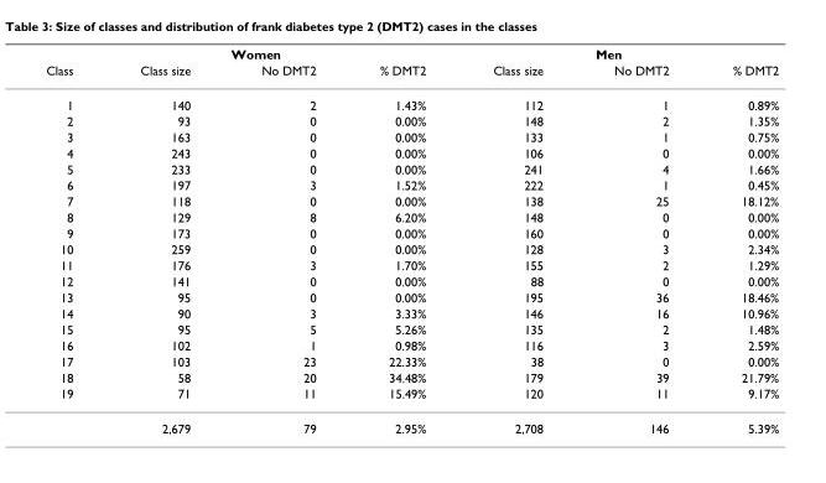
<table><thead><tr><td rowspan="2">Class</td><td colspan="3">Women</td><td colspan="3">Men</td></tr><tr><td>Class size</td><td>No DMT2</td><td>% DMT2</td><td>Class size</td><td>No DMT2</td><td>% DMT2</td></tr></thead><tbody><tr><td>1</td><td>140</td><td>2</td><td>1.43%</td><td>112</td><td>1</td><td>0.89%</td></tr><tr><td>2</td><td>93</td><td>0</td><td>0.00%</td><td>148</td><td>2</td><td>1.35%</td></tr><tr><td>3</td><td>163</td><td>0</td><td>0.00%</td><td>133</td><td>1</td><td>0.75%</td></tr><tr><td>4</td><td>243</td><td>0</td><td>0.00%</td><td>106</td><td>0</td><td>0.00%</td></tr><tr><td>5</td><td>233</td><td>0</td><td>0.00%</td><td>241</td><td>4</td><td>1.66%</td></tr><tr><td>6</td><td>197</td><td>3</td><td>1.52%</td><td>222</td><td>1</td><td>0.45%</td></tr><tr><td>7</td><td>118</td><td>0</td><td>0.00%</td><td>138</td><td>25</td><td>18.12%</td></tr><tr><td>8</td><td>129</td><td>8</td><td>6.20%</td><td>148</td><td>0</td><td>0.00%</td></tr><tr><td>9</td><td>173</td><td>0</td><td>0.00%</td><td>160</td><td>0</td><td>0.00%</td></tr><tr><td>10</td><td>259</td><td>0</td><td>0.00%</td><td>128</td><td>3</td><td>2.34%</td></tr><tr><td>11</td><td>176</td><td>3</td><td>1.70%</td><td>155</td><td>2</td><td>1.29%</td></tr><tr><td>12</td><td>141</td><td>0</td><td>0.00%</td><td>88</td><td>0</td><td>0.00%</td></tr><tr><td>13</td><td>95</td><td>0</td><td>0.00%</td><td>195</td><td>36</td><td>18.46%</td></tr><tr><td>14</td><td>90</td><td>3</td><td>3.33%</td><td>146</td><td>16</td><td>10.96%</td></tr><tr><td>15</td><td>95</td><td>5</td><td>5.26%</td><td>135</td><td>2</td><td>1.48%</td></tr><tr><td>16</td><td>102</td><td>1</td><td>0.98%</td><td>116</td><td>3</td><td>2.59%</td></tr><tr><td>17</td><td>103</td><td>23</td><td>22.33%</td><td>38</td><td>0</td><td>0.00%</td></tr><tr><td>18</td><td>58</td><td>20</td><td>34.48%</td><td>179</td><td>39</td><td>21.79%</td></tr><tr><td rowspan="2">19</td><td>71</td><td>11</td><td>15.49%</td><td>120</td><td>11</td><td>9.17%</td></tr><tr><td>2,679</td><td>79</td><td>2.95%</td><td>2,708</td><td>146</td><td>5.39%</td></tr></tbody></table>